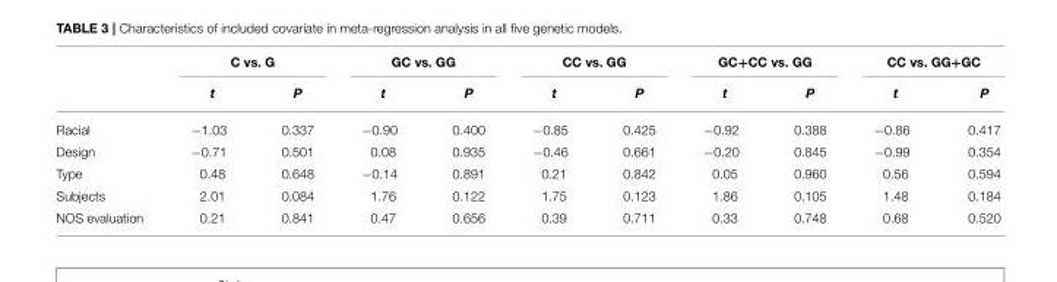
<table><thead><tr><td rowspan="2"></td><td colspan="2">C vs. G</td><td colspan="2">GC vs. GG</td><td colspan="2">CC vs. GG</td><td colspan="2">GC+CC vs. GG</td><td colspan="2">CC vs. GG+GC</td></tr><tr><td>t</td><td>P</td><td>t</td><td>P</td><td>t</td><td>P</td><td>t</td><td>P</td><td>t</td><td>P</td></tr></thead><tbody><tr><td>Racial</td><td>−1.03</td><td>0.337</td><td>−0.90</td><td>0.400</td><td>−0.85</td><td>0.425</td><td>−0.92</td><td>0.388</td><td>−0.86</td><td>0.417</td></tr><tr><td>Design</td><td>−0.71</td><td>0.501</td><td>0.08</td><td>0.935</td><td>−0.46</td><td>0.661</td><td>−0.20</td><td>0.845</td><td>−0.99</td><td>0.354</td></tr><tr><td>Type</td><td>0.48</td><td>0.648</td><td>−0.14</td><td>0.891</td><td>0.21</td><td>0.842</td><td>0.05</td><td>0.960</td><td>0.56</td><td>0.594</td></tr><tr><td>Subjects</td><td>2.01</td><td>0.084</td><td>1.76</td><td>0.122</td><td>1.75</td><td>0.123</td><td>1.86</td><td>0.105</td><td>1.48</td><td>0.184</td></tr><tr><td>NOS evaluation</td><td>0.21</td><td>0.841</td><td>0.47</td><td>0.656</td><td>0.39</td><td>0.711</td><td>0.33</td><td>0.748</td><td>0.68</td><td>0.520</td></tr></tbody></table>